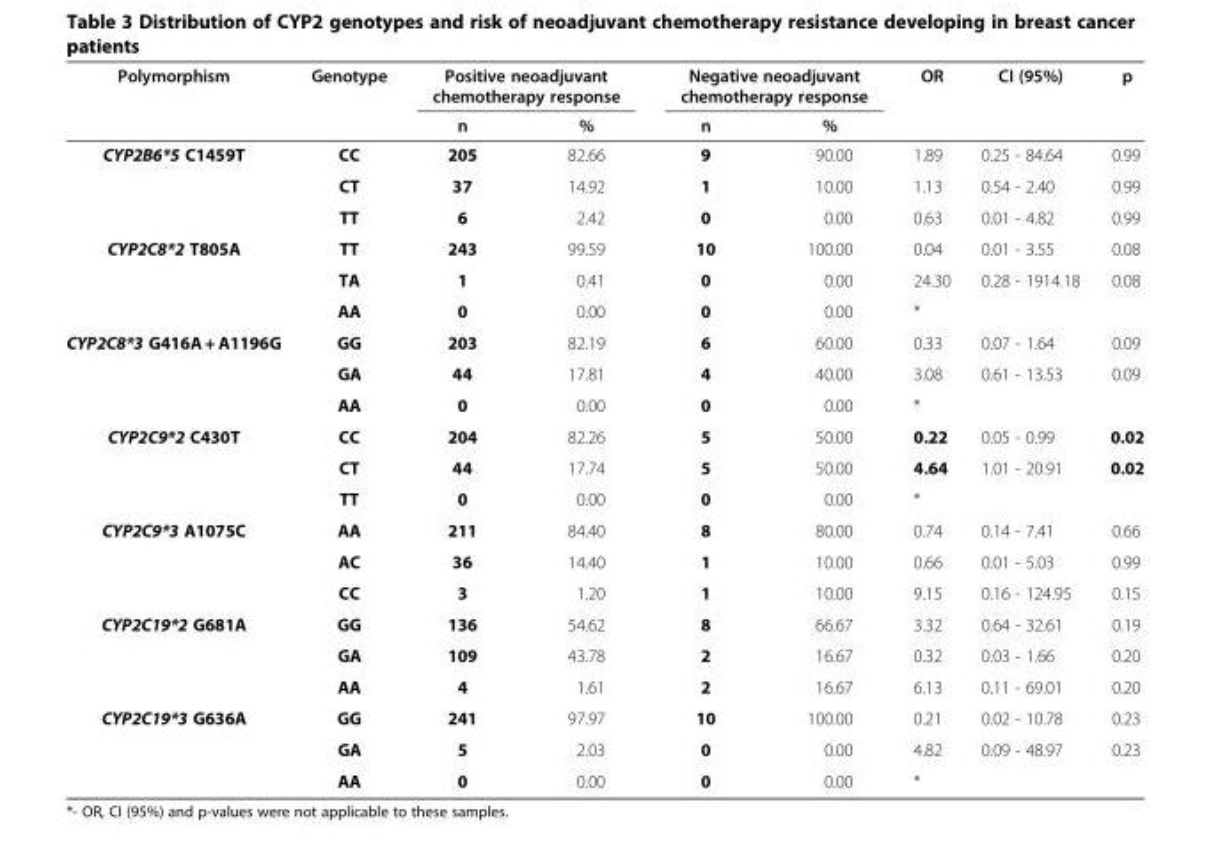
<table><thead><tr><td rowspan="2">Polymorphism</td><td rowspan="2">Genotype</td><td colspan="2">Positive neoadjuvant chemotherapy response</td><td colspan="2">Negative neoadjuvant chemotherapy response</td><td rowspan="2">OR</td><td rowspan="2">CI (95%)</td><td rowspan="2">p</td></tr><tr><td>n</td><td>%</td><td>n</td><td>%</td></tr></thead><tbody><tr><td rowspan="3">CYP2B6*5 C1459T</td><td>CC</td><td>205</td><td>82.66</td><td>9</td><td>90.00</td><td>1.89</td><td>0.25 - 84.64</td><td>0.99</td></tr><tr><td>CT</td><td>37</td><td>14.92</td><td>1</td><td>10.00</td><td>1.13</td><td>0.54 - 2.40</td><td>0.99</td></tr><tr><td>TT</td><td>6</td><td>2.42</td><td>0</td><td>0.00</td><td>0.63</td><td>0.01 - 4.82</td><td>0.99</td></tr><tr><td rowspan="3">CYP2C8*2 T805A</td><td>TT</td><td>243</td><td>99.59</td><td>10</td><td>100.00</td><td>0.04</td><td>0.01 - 3.55</td><td>0.08</td></tr><tr><td>TA</td><td>1</td><td>0.41</td><td>0</td><td>0.00</td><td>24.30</td><td>0.28 - 1914.18</td><td>0.08</td></tr><tr><td>AA</td><td>0</td><td>0.00</td><td>0</td><td>0.00</td><td>*</td><td></td><td></td></tr><tr><td rowspan="3">CYP2C8*3 G416A + A1196G</td><td>GG</td><td>203</td><td>82.19</td><td>6</td><td>60.00</td><td>0.33</td><td>0.07 - 1.64</td><td>0.09</td></tr><tr><td>GA</td><td>44</td><td>17.81</td><td>4</td><td>40.00</td><td>3.08</td><td>0.61 - 13.53</td><td>0.09</td></tr><tr><td>AA</td><td>0</td><td>0.00</td><td>0</td><td>0.00</td><td>*</td><td></td><td></td></tr><tr><td rowspan="3">CYP2C9*2 C430T</td><td>CC</td><td>204</td><td>82.26</td><td>5</td><td>50.00</td><td>0.22</td><td>0.05 - 0.99</td><td>0.02</td></tr><tr><td>CT</td><td>44</td><td>17.74</td><td>5</td><td>50.00</td><td>4.64</td><td>1.01 - 20.91</td><td>0.02</td></tr><tr><td>TT</td><td>0</td><td>0.00</td><td>0</td><td>0.00</td><td>*</td><td></td><td></td></tr><tr><td rowspan="3">CYP2C9*3 A1075C</td><td>AA</td><td>211</td><td>84.40</td><td>8</td><td>80.00</td><td>0.74</td><td>0.14 - 7.41</td><td>0.66</td></tr><tr><td>AC</td><td>36</td><td>14.40</td><td>1</td><td>10.00</td><td>0.66</td><td>0.01 - 5.03</td><td>0.99</td></tr><tr><td>CC</td><td>3</td><td>1.20</td><td>1</td><td>10.00</td><td>9.15</td><td>0.16 - 124.95</td><td>0.15</td></tr><tr><td rowspan="3">CYP2C19*2 G681A</td><td>GG</td><td>136</td><td>54.62</td><td>8</td><td>66.67</td><td>3.32</td><td>0.64 - 32.61</td><td>0.19</td></tr><tr><td>GA</td><td>109</td><td>43.78</td><td>2</td><td>16.67</td><td>0.32</td><td>0.03 - 1.66</td><td>0.20</td></tr><tr><td>AA</td><td>4</td><td>1.61</td><td>2</td><td>16.67</td><td>6.13</td><td>0.11 - 69.01</td><td>0.20</td></tr><tr><td rowspan="3">CYP2C19*3 G636A</td><td>GG</td><td>241</td><td>97.97</td><td>10</td><td>100.00</td><td>0.21</td><td>0.02 - 10.78</td><td>0.23</td></tr><tr><td>GA</td><td>5</td><td>2.03</td><td>0</td><td>0.00</td><td>4.82</td><td>0.09 - 48.97</td><td>0.23</td></tr><tr><td>AA</td><td>0</td><td>0.00</td><td>0</td><td>0.00</td><td>*</td><td></td><td></td></tr></tbody></table>